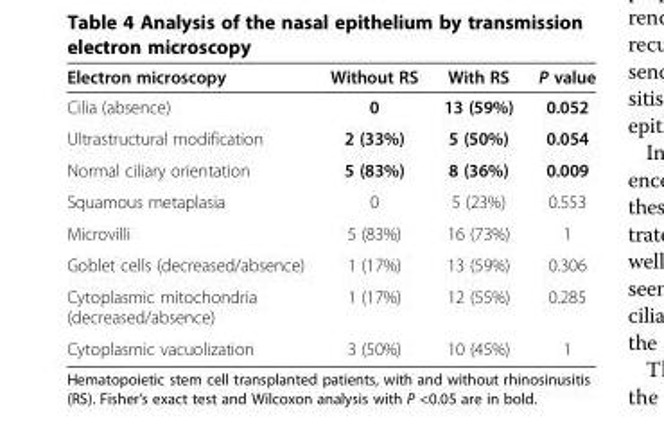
<table><thead><tr><td>Electron microscopy</td><td>Without RS</td><td>With RS</td><td>P value</td></tr></thead><tbody><tr><td>Cilia (absence)</td><td>0</td><td>13 (59%)</td><td>0.052</td></tr><tr><td>Ultrastructural modification</td><td>2 (33%)</td><td>5 (50%)</td><td>0.054</td></tr><tr><td>Normal ciliary orientation</td><td>5 (83%)</td><td>8 (36%)</td><td>0.009</td></tr><tr><td>Squamous metaplasia</td><td>0</td><td>5 (23%)</td><td>0.553</td></tr><tr><td>Microvilli</td><td>5 (83%)</td><td>16 (73%)</td><td>1</td></tr><tr><td>Goblet cells (decreased/absence)</td><td>1 (17%)</td><td>13 (59%)</td><td>0.306</td></tr><tr><td>Cytoplasmic mitochondria (decreased/absence)</td><td>1 (17%)</td><td>12 (55%)</td><td>0.285</td></tr><tr><td>Cytoplasmic vacuolization</td><td>3 (50%)</td><td>10 (45%)</td><td>1</td></tr></tbody></table>